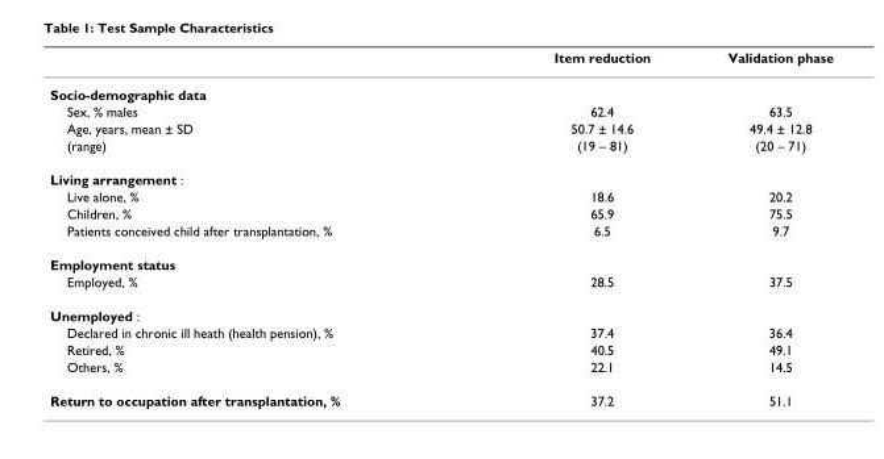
<table><thead><tr><td></td><td>Item reduction</td><td>Validation phase</td></tr></thead><tbody><tr><td colspan="3">Socio-demographic data</td></tr><tr><td>Sex, % males</td><td>62.4</td><td>63.5</td></tr><tr><td>Age, years, mean ± SD</td><td>50.7 ± 14.6</td><td>49.4 ± 12.8</td></tr><tr><td>(range)</td><td>(19 – 81)</td><td>(20 – 71)</td></tr><tr><td colspan="3">Living arrangement :</td></tr><tr><td>Live alone, %</td><td>18.6</td><td>20.2</td></tr><tr><td>Children, %</td><td>65.9</td><td>75.5</td></tr><tr><td>Patients conceived child after transplantation, %</td><td>6.5</td><td>9.7</td></tr><tr><td colspan="3">Employment status</td></tr><tr><td>Employed, %</td><td>28.5</td><td>37.5</td></tr><tr><td colspan="3">Unemployed :</td></tr><tr><td>Declared in chronic ill heath (health pension), %</td><td>37.4</td><td>36.4</td></tr><tr><td>Retired, %</td><td>40.5</td><td>49.1</td></tr><tr><td>Others, %</td><td>22.1</td><td>14.5</td></tr><tr><td>Return to occupation after transplantation, %</td><td>37.2</td><td>51.1</td></tr></tbody></table>